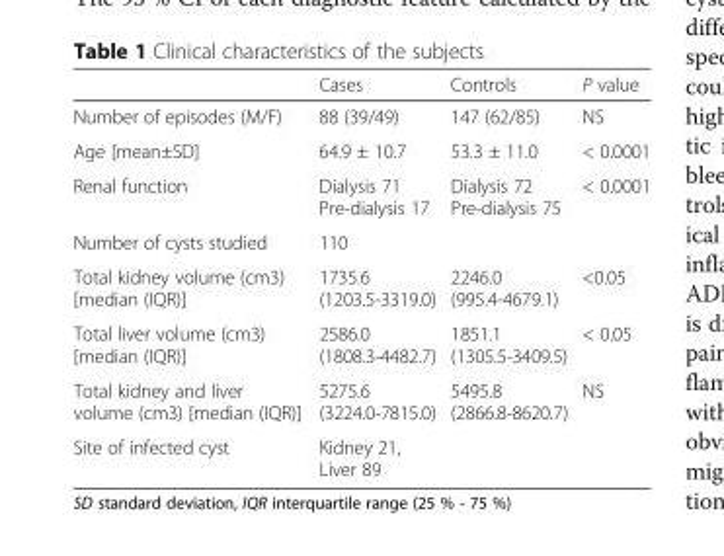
<table><thead><tr><td></td><td>Cases</td><td>Controls</td><td>P value</td></tr></thead><tbody><tr><td>Number of episodes (M/F)</td><td>88 (39/49)</td><td>147 (62/85)</td><td>NS</td></tr><tr><td>Age [mean±SD]</td><td>64.9 ± 10.7</td><td>53.3 ± 11.0</td><td>&lt; 0.0001</td></tr><tr><td>Renal function</td><td>Dialysis 71 Pre-dialysis 17</td><td>Dialysis 72 Pre-dialysis 75</td><td>&lt; 0.0001</td></tr><tr><td>Number of cysts studied</td><td>110</td><td></td><td></td></tr><tr><td>Total kidney volume (cm3) [median (IQR)]</td><td>1735.6 (1203.5-3319.0)</td><td>2246.0 (995.4-4679.1)</td><td>&lt;0.05</td></tr><tr><td>Total liver volume (cm3) [median (IQR)]</td><td>2586.0 (1808.3-4482.7)</td><td>1851.1 (1305.5-3409.5)</td><td>&lt; 0.05</td></tr><tr><td>Total kidney and liver volume (cm3) [median (IQR)]</td><td>5275.6 (3224.0-7815.0)</td><td>5495.8 (2866.8-8620.7)</td><td>NS</td></tr><tr><td>Site of infected cyst</td><td>Kidney 21, Liver 89</td><td></td><td></td></tr></tbody></table>